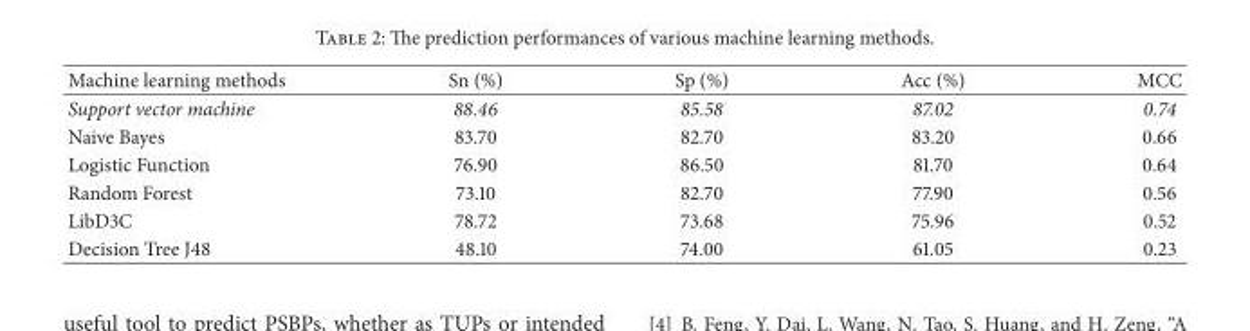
<table><thead><tr><td>Machine learning methods</td><td>Sn (%)</td><td>Sp (%)</td><td>Acc (%)</td><td>MCC</td></tr></thead><tbody><tr><td>Support vector machine</td><td>88.46</td><td>85.58</td><td>87.02</td><td>0.74</td></tr><tr><td>Naive Bayes</td><td>83.70</td><td>82.70</td><td>83.20</td><td>0.66</td></tr><tr><td>Logistic Function</td><td>76.90</td><td>86.50</td><td>81.70</td><td>0.64</td></tr><tr><td>Random Forest</td><td>73.10</td><td>82.70</td><td>77.90</td><td>0.56</td></tr><tr><td>LibD3C</td><td>78.72</td><td>73.68</td><td>75.96</td><td>0.52</td></tr><tr><td>Decision Tree J48</td><td>48.10</td><td>74.00</td><td>61.05</td><td>0.23</td></tr></tbody></table>